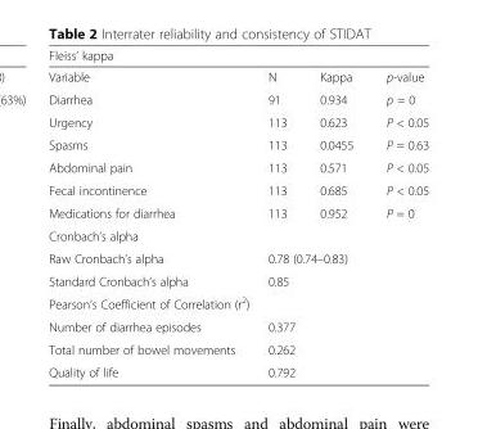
<table><thead><tr><td colspan="4">Fleiss’ kappa</td></tr><tr><td>Variable</td><td>N</td><td>Kappa</td><td>p-value</td></tr></thead><tbody><tr><td>Diarrhea</td><td>91</td><td>0.934</td><td>p = 0</td></tr><tr><td>Urgency</td><td>113</td><td>0.623</td><td>P &lt; 0.05</td></tr><tr><td>Spasms</td><td>113</td><td>0.0455</td><td>P = 0.63</td></tr><tr><td>Abdominal pain</td><td>113</td><td>0.571</td><td>P &lt; 0.05</td></tr><tr><td>Fecal incontinence</td><td>113</td><td>0.685</td><td>P &lt; 0.05</td></tr><tr><td>Medications for diarrhea</td><td>113</td><td>0.952</td><td>P = 0</td></tr><tr><td colspan="4">Cronbach’s alpha</td></tr><tr><td>Raw Cronbach’s alpha</td><td colspan="3">0.78 (0.74–0.83)</td></tr><tr><td>Standard Cronbach’s alpha</td><td colspan="3">0.85</td></tr><tr><td colspan="4">Pearson’s Coefficient of Correlation (r<sup>2</sup>)</td></tr><tr><td>Number of diarrhea episodes</td><td colspan="3">0.377</td></tr><tr><td>Total number of bowel movements</td><td colspan="3">0.262</td></tr><tr><td>Quality of life</td><td colspan="3">0.792</td></tr></tbody></table>